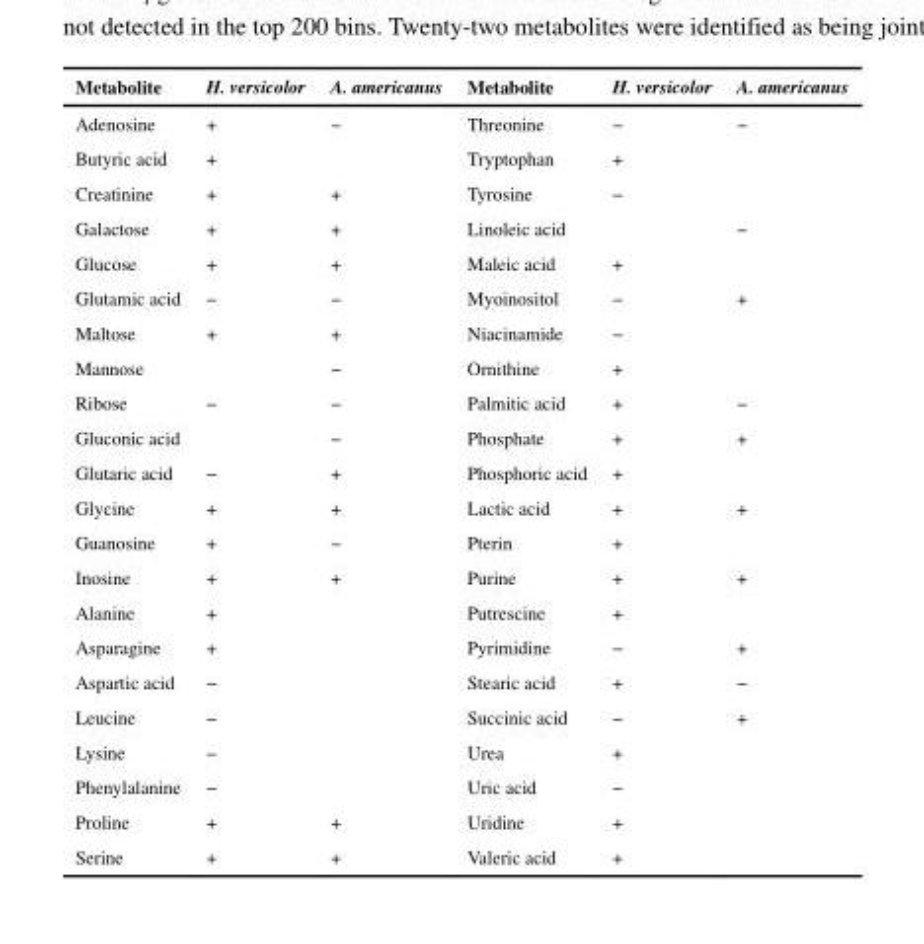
<table><thead><tr><td>Metabolite</td><td>H. versicolor</td><td>A. americanus</td><td>Metabolite</td><td>H. versicolor</td><td>A. americanus</td></tr></thead><tbody><tr><td>Adenosine</td><td>+</td><td>−</td><td>Threonine</td><td>−</td><td>−</td></tr><tr><td>Butyric acid</td><td>+</td><td></td><td>Tryptophan</td><td>+</td><td></td></tr><tr><td>Creatinine</td><td>+</td><td>+</td><td>Tyrosine</td><td>−</td><td></td></tr><tr><td>Galactose</td><td>+</td><td>+</td><td>Linoleic acid</td><td></td><td>−</td></tr><tr><td>Glucose</td><td>+</td><td>+</td><td>Maleic acid</td><td>+</td><td></td></tr><tr><td>Glutamic acid</td><td>−</td><td>−</td><td>Myoinositol</td><td>−</td><td>+</td></tr><tr><td>Maltose</td><td>+</td><td>+</td><td>Niacinamide</td><td>−</td><td></td></tr><tr><td>Mannose</td><td></td><td>−</td><td>Ornithine</td><td>+</td><td></td></tr><tr><td>Ribose</td><td>−</td><td>−</td><td>Palmitic acid</td><td>+</td><td>−</td></tr><tr><td>Gluconic acid</td><td></td><td>−</td><td>Phosphate</td><td>+</td><td>+</td></tr><tr><td>Glutaric acid</td><td>−</td><td>+</td><td>Phosphoric acid</td><td>+</td><td></td></tr><tr><td>Glycine</td><td>+</td><td>+</td><td>Lactic acid</td><td>+</td><td>+</td></tr><tr><td>Guanosine</td><td>+</td><td>−</td><td>Pterin</td><td>+</td><td></td></tr><tr><td>Inosine</td><td>+</td><td>+</td><td>Purine</td><td>+</td><td>+</td></tr><tr><td>Alanine</td><td>+</td><td></td><td>Putrescine</td><td>+</td><td></td></tr><tr><td>Asparagine</td><td>+</td><td></td><td>Pyrimidine</td><td>−</td><td>+</td></tr><tr><td>Aspartic acid</td><td>−</td><td></td><td>Stearic acid</td><td>+</td><td>−</td></tr><tr><td>Leucine</td><td>−</td><td></td><td>Succinic acid</td><td>−</td><td>+</td></tr><tr><td>Lysine</td><td>−</td><td></td><td>Urea</td><td>+</td><td></td></tr><tr><td>Phenylalanine</td><td>−</td><td></td><td>Uric acid</td><td>−</td><td></td></tr><tr><td>Proline</td><td>+</td><td>+</td><td>Uridine</td><td>+</td><td></td></tr><tr><td>Serine</td><td>+</td><td>+</td><td>Valeric acid</td><td>+</td><td></td></tr></tbody></table>